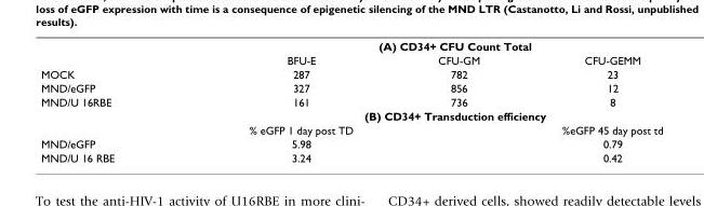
<table><thead><tr><td rowspan="2"></td><td colspan="3">(A) CD34+ CFU Count Total</td></tr><tr><td>BFU-E</td><td>CFU-GM</td><td>CFU-GEMM</td></tr></thead><tbody><tr><td>MOCK</td><td>287</td><td>782</td><td>23</td></tr><tr><td>MND/eGFP</td><td>327</td><td>856</td><td>12</td></tr><tr><td rowspan="3">MND/U 16RBE</td><td>161</td><td>736</td><td>8</td></tr><tr><td colspan="3">(B) CD34+ Transduction efficiency</td></tr><tr><td>% eGFP 1 day post TD</td><td></td><td>%eGFP 45 day post td</td></tr><tr><td>MND/eGFP</td><td>5.98</td><td></td><td>0.79</td></tr><tr><td>MND/U 16 RBE</td><td>3.24</td><td></td><td>0.42</td></tr></tbody></table>